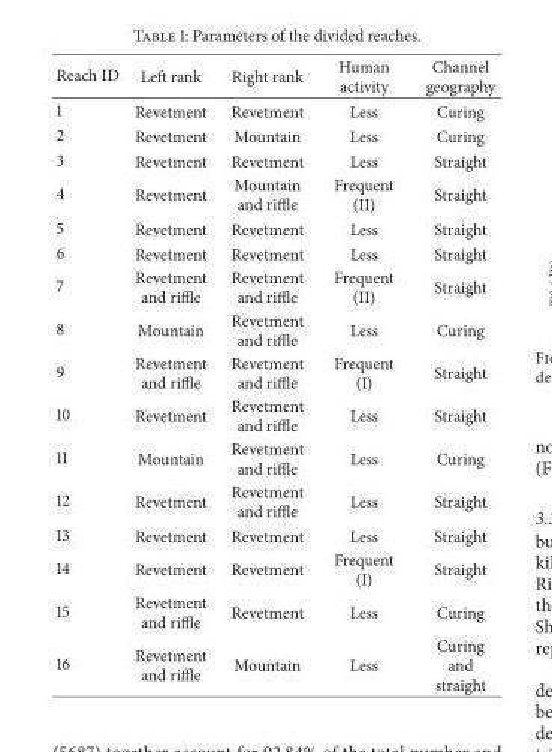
<table><thead><tr><td>Reach ID</td><td>Left rank</td><td>Right rank</td><td>Human activity</td><td>Channel geography</td></tr></thead><tbody><tr><td>1</td><td>Revetment</td><td>Revetment</td><td>Less</td><td>Curing</td></tr><tr><td>2</td><td>Revetment</td><td>Mountain</td><td>Less</td><td>Curing</td></tr><tr><td>3</td><td>Revetment</td><td>Revetment</td><td>Less</td><td>Straight</td></tr><tr><td>4</td><td>Revetment</td><td>Mountain and riffle</td><td>Frequent (II)</td><td>Straight</td></tr><tr><td>5</td><td>Revetment</td><td>Revetment</td><td>Less</td><td>Straight</td></tr><tr><td>6</td><td>Revetment</td><td>Revetment</td><td>Less</td><td>Straight</td></tr><tr><td>7</td><td>Revetment and riffle</td><td>Revetment and riffle</td><td>Frequent (II)</td><td>Straight</td></tr><tr><td>8</td><td>Mountain</td><td>Revetment and riffle</td><td>Less</td><td>Curing</td></tr><tr><td>9</td><td>Revetment and riffle</td><td>Revetment and riffle</td><td>Frequent (I)</td><td>Straight</td></tr><tr><td>10</td><td>Revetment</td><td>Revetment and riffle</td><td>Less</td><td>Straight</td></tr><tr><td>11</td><td>Mountain</td><td>Revetment and riffle</td><td>Less</td><td>Curing</td></tr><tr><td>12</td><td>Revetment</td><td>Revetment and riffle</td><td>Less</td><td>Straight</td></tr><tr><td>13</td><td>Revetment</td><td>Revetment</td><td>Less</td><td>Straight</td></tr><tr><td>14</td><td>Revetment</td><td>Revetment</td><td>Frequent (I)</td><td>Straight</td></tr><tr><td>15</td><td>Revetment and riffle</td><td>Revetment</td><td>Less</td><td>Curing</td></tr><tr><td>16</td><td>Revetment and riffle</td><td>Mountain</td><td>Less</td><td>Curing and straight</td></tr></tbody></table>